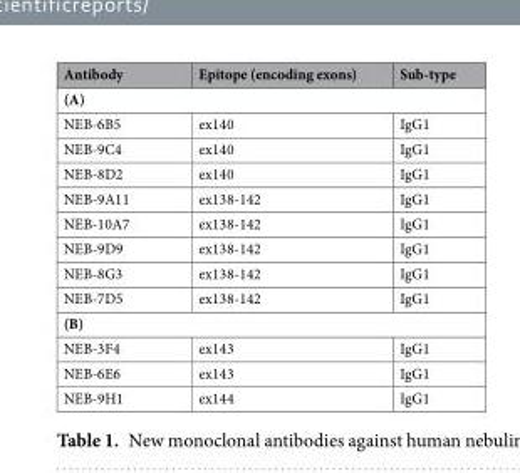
<table><thead><tr><td>Antibody</td><td>Epitope (encoding exons)</td><td>Sub-type</td></tr></thead><tbody><tr><td colspan="3">(A)</td></tr><tr><td>NEB-6B5</td><td>ex140</td><td>IgG1</td></tr><tr><td>NEB-9C4</td><td>ex140</td><td>IgG1</td></tr><tr><td>NEB-8D2</td><td>ex140</td><td>IgG1</td></tr><tr><td>NEB-9A11</td><td>ex138-142</td><td>IgG1</td></tr><tr><td>NEB-10A7</td><td>ex138-142</td><td>IgG1</td></tr><tr><td>NEB-9D9</td><td>ex138-142</td><td>IgG1</td></tr><tr><td>NEB-8G3</td><td>ex138-142</td><td>IgG1</td></tr><tr><td>NEB-7D5</td><td>ex138-142</td><td>IgG1</td></tr><tr><td colspan="3">(B)</td></tr><tr><td>NEB-3F4</td><td>ex143</td><td>IgG1</td></tr><tr><td>NEB-6E6</td><td>ex143</td><td>IgG1</td></tr><tr><td>NEB-9H1</td><td>ex144</td><td>IgG1</td></tr></tbody></table>